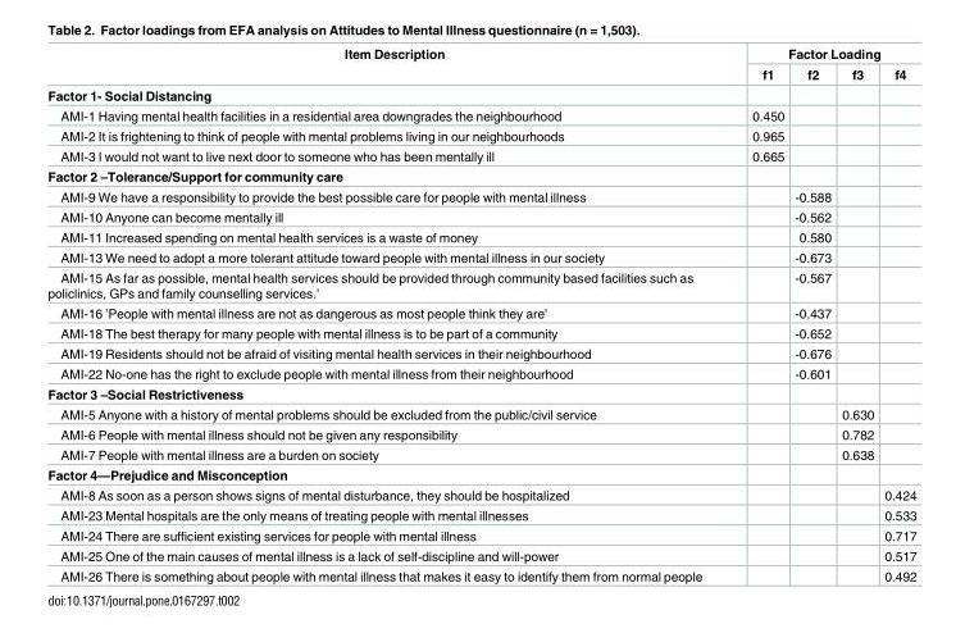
<table><thead><tr><td rowspan="2">Item Description</td><td colspan="4">Factor Loading</td></tr><tr><td>f1</td><td>f2</td><td>f3</td><td>f4</td></tr></thead><tbody><tr><td colspan="5">Factor 1- Social Distancing</td></tr><tr><td>AMI-1 Having mental health facilities in a residential area downgrades the neighbourhood</td><td>0.450</td><td></td><td></td><td></td></tr><tr><td>AMI-2 It is frightening to think of people with mental problems living in our neighbourhoods</td><td>0.965</td><td></td><td></td><td></td></tr><tr><td>AMI-3 I would not want to live next door to someone who has been mentally ill</td><td>0.665</td><td></td><td></td><td></td></tr><tr><td colspan="5">Factor 2 –Tolerance/Support for community care</td></tr><tr><td>AMI-9 We have a responsibility to provide the best possible care for people with mental illness</td><td></td><td>-0.588</td><td></td><td></td></tr><tr><td>AMI-10 Anyone can become mentally ill</td><td></td><td>-0.562</td><td></td><td></td></tr><tr><td>AMI-11 Increased spending on mental health services is a waste of money</td><td></td><td>0.580</td><td></td><td></td></tr><tr><td>AMI-13 We need to adopt a more tolerant attitude toward people with mental illness in our society</td><td></td><td>-0.673</td><td></td><td></td></tr><tr><td>AMI-15 As far as possible, mental health services should be provided through community based facilities such as policlinics, GPs and family counselling services.’</td><td></td><td>-0.567</td><td></td><td></td></tr><tr><td>AMI-16 ’People with mental illness are not as dangerous as most people think they are’</td><td></td><td>-0.437</td><td></td><td></td></tr><tr><td>AMI-18 The best therapy for many people with mental illness is to be part of a community</td><td></td><td>-0.652</td><td></td><td></td></tr><tr><td>AMI-19 Residents should not be afraid of visiting mental health services in their neighbourhood</td><td></td><td>-0.676</td><td></td><td></td></tr><tr><td>AMI-22 No-one has the right to exclude people with mental illness from their neighbourhood</td><td></td><td>-0.601</td><td></td><td></td></tr><tr><td colspan="5">Factor 3 –Social Restrictiveness</td></tr><tr><td>AMI-5 Anyone with a history of mental problems should be excluded from the public/civil service</td><td></td><td></td><td>0.630</td><td></td></tr><tr><td>AMI-6 People with mental illness should not be given any responsibility</td><td></td><td></td><td>0.782</td><td></td></tr><tr><td>AMI-7 People with mental illness are a burden on society</td><td></td><td></td><td>0.638</td><td></td></tr><tr><td colspan="5">Factor 4—Prejudice and Misconception</td></tr><tr><td>AMI-8 As soon as a person shows signs of mental disturbance, they should be hospitalized</td><td></td><td></td><td></td><td>0.424</td></tr><tr><td>AMI-23 Mental hospitals are the only means of treating people with mental illnesses</td><td></td><td></td><td></td><td>0.533</td></tr><tr><td>AMI-24 There are sufficient existing services for people with mental illness</td><td></td><td></td><td></td><td>0.717</td></tr><tr><td>AMI-25 One of the main causes of mental illness is a lack of self-discipline and will-power</td><td></td><td></td><td></td><td>0.517</td></tr><tr><td>AMI-26 There is something about people with mental illness that makes it easy to identify them from normal people</td><td></td><td></td><td></td><td>0.492</td></tr></tbody></table>